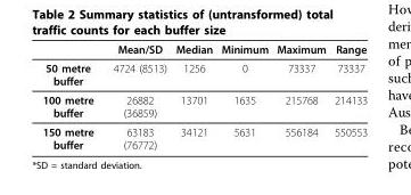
<table><thead><tr><td></td><td>Mean/SD</td><td>Median</td><td>Minimum</td><td>Maximum</td><td>Range</td></tr></thead><tbody><tr><td>50 metre buffer</td><td>4724 (8513)</td><td>1256</td><td>0</td><td>73337</td><td>73337</td></tr><tr><td>100 metre buffer</td><td>26882 (36859)</td><td>13701</td><td>1635</td><td>215768</td><td>214133</td></tr><tr><td>150 metre buffer</td><td>63183 (76772)</td><td>34121</td><td>5631</td><td>556184</td><td>550553</td></tr></tbody></table>